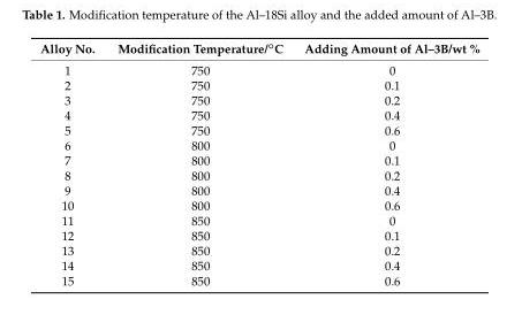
<table><thead><tr><td>Alloy No.</td><td>Modification Temperature/◦C</td><td>Adding Amount of Al–3B/wt %</td></tr></thead><tbody><tr><td>1</td><td>750</td><td>0</td></tr><tr><td>2</td><td>750</td><td>0.1</td></tr><tr><td>3</td><td>750</td><td>0.2</td></tr><tr><td>4</td><td>750</td><td>0.4</td></tr><tr><td>5</td><td>750</td><td>0.6</td></tr><tr><td>6</td><td>800</td><td>0</td></tr><tr><td>7</td><td>800</td><td>0.1</td></tr><tr><td>8</td><td>800</td><td>0.2</td></tr><tr><td>9</td><td>800</td><td>0.4</td></tr><tr><td>10</td><td>800</td><td>0.6</td></tr><tr><td>11</td><td>850</td><td>0</td></tr><tr><td>12</td><td>850</td><td>0.1</td></tr><tr><td>13</td><td>850</td><td>0.2</td></tr><tr><td>14</td><td>850</td><td>0.4</td></tr><tr><td>15</td><td>850</td><td>0.6</td></tr></tbody></table>